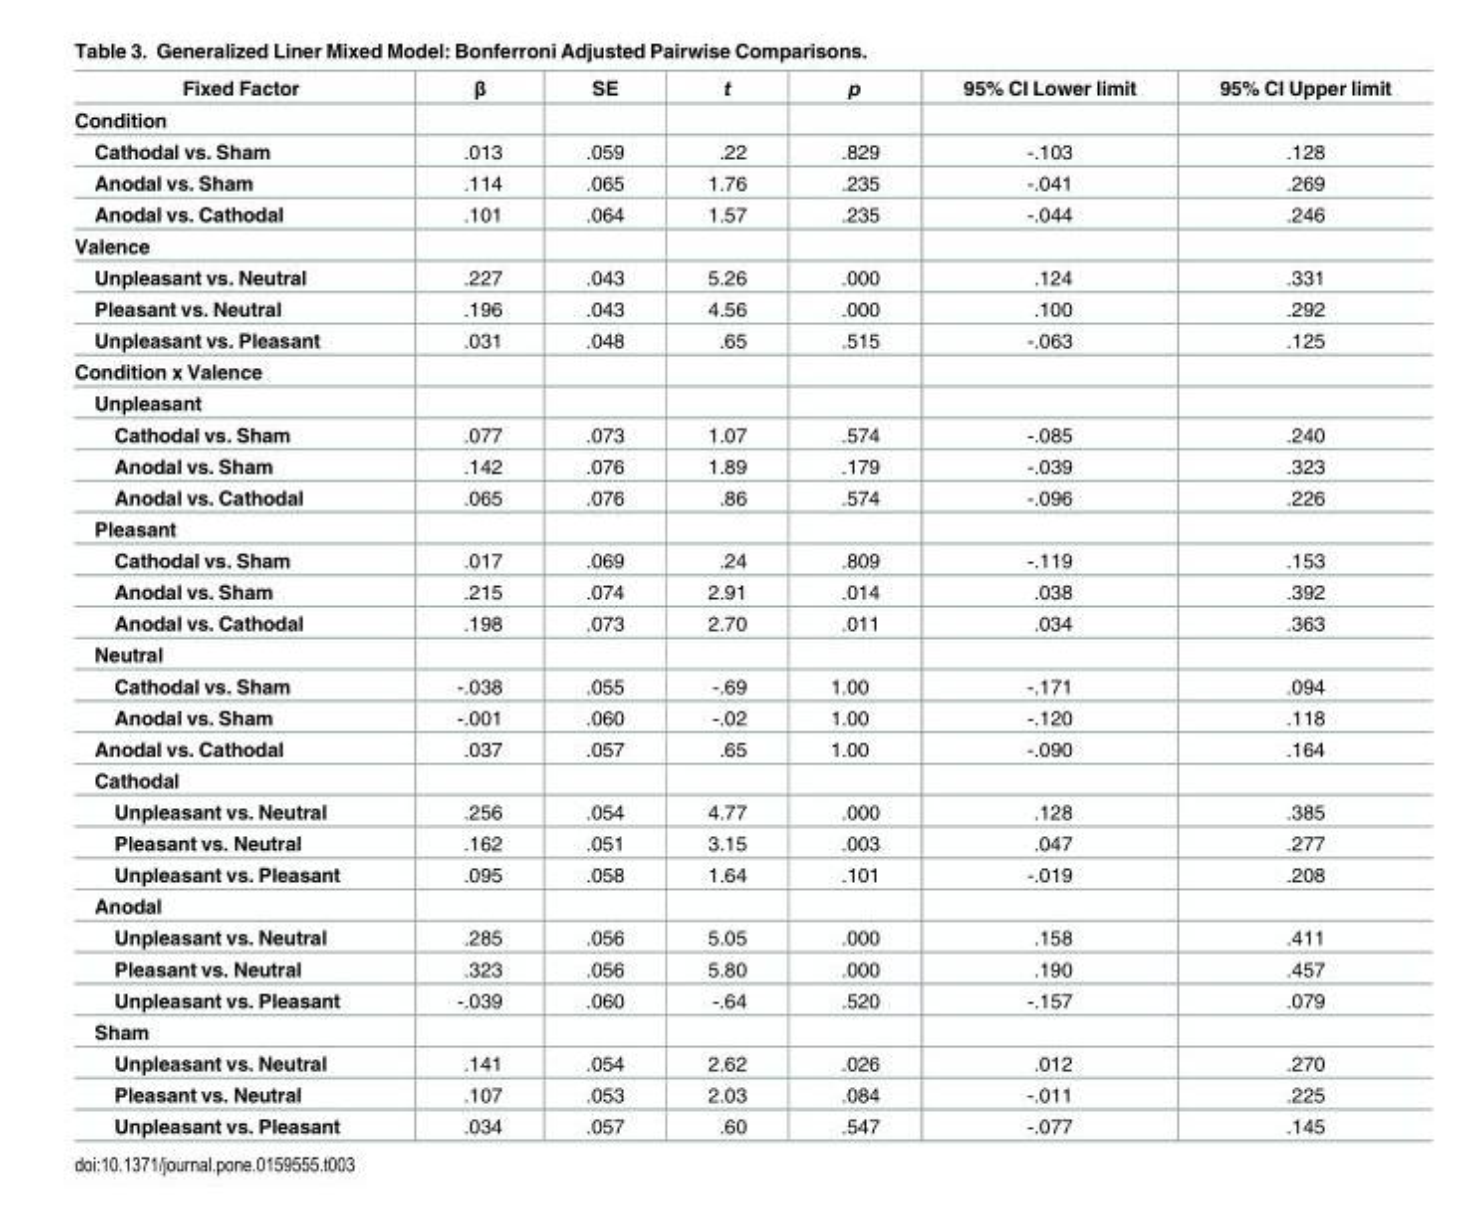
<table><thead><tr><td>Fixed Factor</td><td>β</td><td>SE</td><td>t</td><td>p</td><td>95% CI Lower limit</td><td>95% CI Upper limit</td></tr></thead><tbody><tr><td colspan="7">Condition</td></tr><tr><td>Cathodal vs. Sham</td><td>.013</td><td>.059</td><td>.22</td><td>.829</td><td>-.103</td><td>.128</td></tr><tr><td>Anodal vs. Sham</td><td>.114</td><td>.065</td><td>1.76</td><td>.235</td><td>-.041</td><td>.269</td></tr><tr><td>Anodal vs. Cathodal</td><td>.101</td><td>.064</td><td>1.57</td><td>.235</td><td>-.044</td><td>.246</td></tr><tr><td colspan="7">Valence</td></tr><tr><td>Unpleasant vs. Neutral</td><td>.227</td><td>.043</td><td>5.26</td><td>.000</td><td>.124</td><td>.331</td></tr><tr><td>Pleasant vs. Neutral</td><td>.196</td><td>.043</td><td>4.56</td><td>.000</td><td>.100</td><td>.292</td></tr><tr><td>Unpleasant vs. Pleasant</td><td>.031</td><td>.048</td><td>.65</td><td>.515</td><td>-.063</td><td>.125</td></tr><tr><td colspan="7">Condition x Valence</td></tr><tr><td colspan="7">Unpleasant</td></tr><tr><td>Cathodal vs. Sham</td><td>.077</td><td>.073</td><td>1.07</td><td>.574</td><td>-.085</td><td>.240</td></tr><tr><td>Anodal vs. Sham</td><td>.142</td><td>.076</td><td>1.89</td><td>.179</td><td>-.039</td><td>.323</td></tr><tr><td>Anodal vs. Cathodal</td><td>.065</td><td>.076</td><td>.86</td><td>.574</td><td>-.096</td><td>.226</td></tr><tr><td colspan="7">Pleasant</td></tr><tr><td>Cathodal vs. Sham</td><td>.017</td><td>.069</td><td>.24</td><td>.809</td><td>-.119</td><td>.153</td></tr><tr><td>Anodal vs. Sham</td><td>.215</td><td>.074</td><td>2.91</td><td>.014</td><td>.038</td><td>.392</td></tr><tr><td>Anodal vs. Cathodal</td><td>.198</td><td>.073</td><td>2.70</td><td>.011</td><td>.034</td><td>.363</td></tr><tr><td colspan="7">Neutral</td></tr><tr><td>Cathodal vs. Sham</td><td>-.038</td><td>.055</td><td>-.69</td><td>1.00</td><td>-.171</td><td>.094</td></tr><tr><td>Anodal vs. Sham</td><td>-.001</td><td>.060</td><td>-.02</td><td>1.00</td><td>-.120</td><td>.118</td></tr><tr><td>Anodal vs. Cathodal</td><td>.037</td><td>.057</td><td>.65</td><td>1.00</td><td>-.090</td><td>.164</td></tr><tr><td colspan="7">Cathodal</td></tr><tr><td>Unpleasant vs. Neutral</td><td>.256</td><td>.054</td><td>4.77</td><td>.000</td><td>.128</td><td>.385</td></tr><tr><td>Pleasant vs. Neutral</td><td>.162</td><td>.051</td><td>3.15</td><td>.003</td><td>.047</td><td>.277</td></tr><tr><td>Unpleasant vs. Pleasant</td><td>.095</td><td>.058</td><td>1.64</td><td>.101</td><td>-.019</td><td>.208</td></tr><tr><td colspan="7">Anodal</td></tr><tr><td>Unpleasant vs. Neutral</td><td>.285</td><td>.056</td><td>5.05</td><td>.000</td><td>.158</td><td>.411</td></tr><tr><td>Pleasant vs. Neutral</td><td>.323</td><td>.056</td><td>5.80</td><td>.000</td><td>.190</td><td>.457</td></tr><tr><td>Unpleasant vs. Pleasant</td><td>-.039</td><td>.060</td><td>-.64</td><td>.520</td><td>-.157</td><td>.079</td></tr><tr><td colspan="7">Sham</td></tr><tr><td>Unpleasant vs. Neutral</td><td>.141</td><td>.054</td><td>2.62</td><td>.026</td><td>.012</td><td>.270</td></tr><tr><td>Pleasant vs. Neutral</td><td>.107</td><td>.053</td><td>2.03</td><td>.084</td><td>-.011</td><td>.225</td></tr><tr><td>Unpleasant vs. Pleasant</td><td>.034</td><td>.057</td><td>.60</td><td>.547</td><td>-.077</td><td>.145</td></tr></tbody></table>